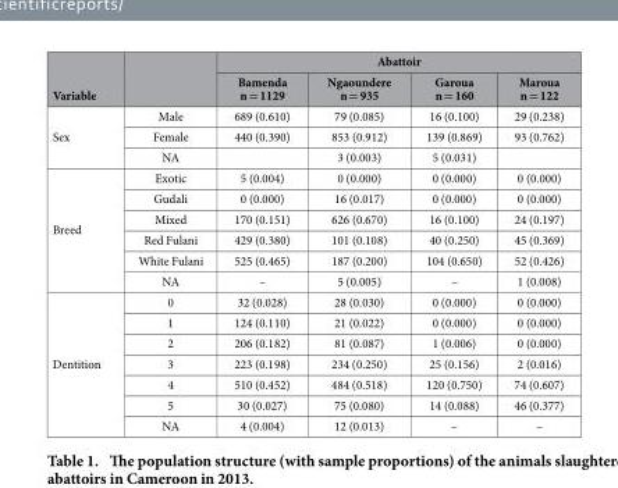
<table><thead><tr><td rowspan="2">Variable</td><td rowspan="2"></td><td colspan="4">Abattoir</td></tr><tr><td>Bamenda n = 1129</td><td>Ngaoundere n = 935</td><td>Garoua n = 160</td><td>Maroua n = 122</td></tr></thead><tbody><tr><td rowspan="3">Sex</td><td>Male</td><td>689 (0.610)</td><td>79 (0.085)</td><td>16 (0.100)</td><td>29 (0.238)</td></tr><tr><td>Female</td><td>440 (0.390)</td><td>853 (0.912)</td><td>139 (0.869)</td><td>93 (0.762)</td></tr><tr><td>NA</td><td></td><td>3 (0.003)</td><td>5 (0.031)</td><td></td></tr><tr><td rowspan="6">Breed</td><td>Exotic</td><td>5 (0.004)</td><td>0 (0.000)</td><td>0 (0.000)</td><td>0 (0.000)</td></tr><tr><td>Gudali</td><td>0 (0.000)</td><td>16 (0.017)</td><td>0 (0.000)</td><td>0 (0.000)</td></tr><tr><td>Mixed</td><td>170 (0.151)</td><td>626 (0.670)</td><td>16 (0.100)</td><td>24 (0.197)</td></tr><tr><td>Red Fulani</td><td>429 (0.380)</td><td>101 (0.108)</td><td>40 (0.250)</td><td>45 (0.369)</td></tr><tr><td>White Fulani</td><td>525 (0.465)</td><td>187 (0.200)</td><td>104 (0.650)</td><td>52 (0.426)</td></tr><tr><td>NA</td><td>–</td><td>5 (0.005)</td><td>–</td><td>1 (0.008)</td></tr><tr><td rowspan="7">Dentition</td><td>0</td><td>32 (0.028)</td><td>28 (0.030)</td><td>0 (0.000)</td><td>0 (0.000)</td></tr><tr><td>1</td><td>124 (0.110)</td><td>21 (0.022)</td><td>0 (0.000)</td><td>0 (0.000)</td></tr><tr><td>2</td><td>206 (0.182)</td><td>81 (0.087)</td><td>1 (0.006)</td><td>0 (0.000)</td></tr><tr><td>3</td><td>223 (0.198)</td><td>234 (0.250)</td><td>25 (0.156)</td><td>2 (0.016)</td></tr><tr><td>4</td><td>510 (0.452)</td><td>484 (0.518)</td><td>120 (0.750)</td><td>74 (0.607)</td></tr><tr><td>5</td><td>30 (0.027)</td><td>75 (0.080)</td><td>14 (0.088)</td><td>46 (0.377)</td></tr><tr><td>NA</td><td>4 (0.004)</td><td>12 (0.013)</td><td>–</td><td>–</td></tr></tbody></table>